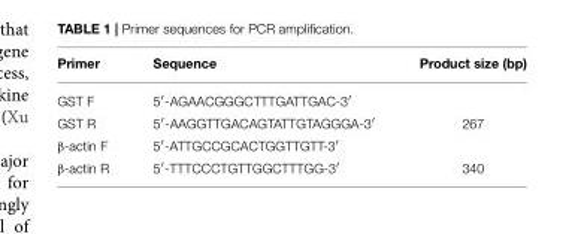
<table><thead><tr><td>Primer</td><td>Sequence</td><td>Product size (bp)</td></tr></thead><tbody><tr><td>GST F</td><td>5′-AGAACGGGCTTTGATTGAC-3′</td><td></td></tr><tr><td>GST R</td><td>5′-AAGGTTGACAGTATTGTAGGGA-3′</td><td>267</td></tr><tr><td>β-actin F</td><td>5′-ATTGCCGCACTGGTTGTT-3′</td><td></td></tr><tr><td>β-actin R</td><td>5′-TTTCCCTGTTGGCTTTGG-3′</td><td>340</td></tr></tbody></table>